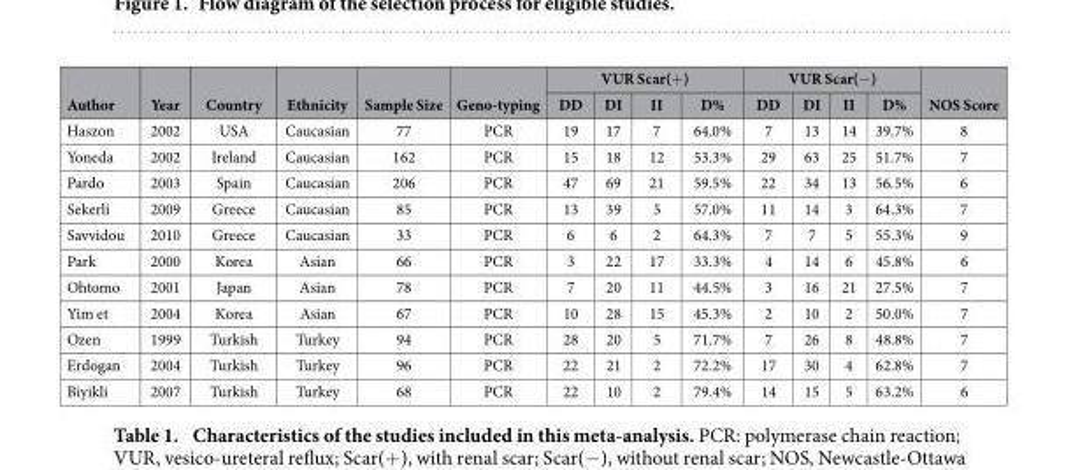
<table><thead><tr><td rowspan="2">Author</td><td rowspan="2">Year</td><td rowspan="2">Country</td><td rowspan="2">Ethnicity</td><td rowspan="2">Sample Size</td><td rowspan="2">Geno-typing</td><td colspan="4">VUR Scar(+ )</td><td colspan="4">VUR Scar(− )</td><td rowspan="2">NOS Score</td></tr><tr><td>DD</td><td>DI</td><td>II</td><td>D%</td><td>DD</td><td>DI</td><td>II</td><td>D%</td></tr></thead><tbody><tr><td>Haszon</td><td>2002</td><td>USA</td><td>Caucasian</td><td>77</td><td>PCR</td><td>19</td><td>17</td><td>7</td><td>64.0%</td><td>7</td><td>13</td><td>14</td><td>39.7%</td><td>8</td></tr><tr><td>Yoneda</td><td>2002</td><td>Ireland</td><td>Caucasian</td><td>162</td><td>PCR</td><td>15</td><td>18</td><td>12</td><td>53.3%</td><td>29</td><td>63</td><td>25</td><td>51.7%</td><td>7</td></tr><tr><td>Pardo</td><td>2003</td><td>Spain</td><td>Caucasian</td><td>206</td><td>PCR</td><td>47</td><td>69</td><td>21</td><td>59.5%</td><td>22</td><td>34</td><td>13</td><td>56.5%</td><td>6</td></tr><tr><td>Sekerli</td><td>2009</td><td>Greece</td><td>Caucasian</td><td>85</td><td>PCR</td><td>13</td><td>39</td><td>5</td><td>57.0%</td><td>11</td><td>14</td><td>3</td><td>64.3%</td><td>7</td></tr><tr><td>Savvidou</td><td>2010</td><td>Greece</td><td>Caucasian</td><td>33</td><td>PCR</td><td>6</td><td>6</td><td>2</td><td>64.3%</td><td>7</td><td>7</td><td>5</td><td>55.3%</td><td>9</td></tr><tr><td>Park</td><td>2000</td><td>Korea</td><td>Asian</td><td>66</td><td>PCR</td><td>3</td><td>22</td><td>17</td><td>33.3%</td><td>4</td><td>14</td><td>6</td><td>45.8%</td><td>6</td></tr><tr><td>Ohtomo</td><td>2001</td><td>Japan</td><td>Asian</td><td>78</td><td>PCR</td><td>7</td><td>20</td><td>11</td><td>44.5%</td><td>3</td><td>16</td><td>21</td><td>27.5%</td><td>7</td></tr><tr><td>Yim et</td><td>2004</td><td>Korea</td><td>Asian</td><td>67</td><td>PCR</td><td>10</td><td>28</td><td>15</td><td>45.3%</td><td>2</td><td>10</td><td>2</td><td>50.0%</td><td>7</td></tr><tr><td>Ozen</td><td>1999</td><td>Turkish</td><td>Turkey</td><td>94</td><td>PCR</td><td>28</td><td>20</td><td>5</td><td>71.7%</td><td>7</td><td>26</td><td>8</td><td>48.8%</td><td>7</td></tr><tr><td>Erdogan</td><td>2004</td><td>Turkish</td><td>Turkey</td><td>96</td><td>PCR</td><td>22</td><td>21</td><td>2</td><td>72.2%</td><td>17</td><td>30</td><td>4</td><td>62.8%</td><td>7</td></tr><tr><td>Biyikli</td><td>2007</td><td>Turkish</td><td>Turkey</td><td>68</td><td>PCR</td><td>22</td><td>10</td><td>2</td><td>79.4%</td><td>14</td><td>15</td><td>5</td><td>63.2%</td><td>6</td></tr></tbody></table>